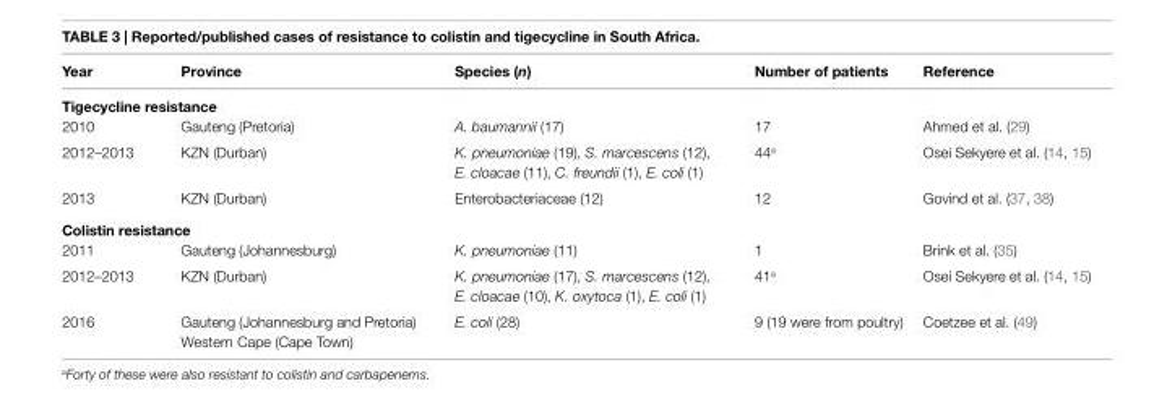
<table><thead><tr><td>Year</td><td>Province</td><td>Species (n)</td><td>Number of patients</td><td>Reference</td></tr></thead><tbody><tr><td colspan="5">Tigecycline resistance</td></tr><tr><td>2010</td><td>Gauteng (Pretoria)</td><td>A. baumannii (17)</td><td>17</td><td>Ahmed et al. (29)</td></tr><tr><td>2012–2013</td><td>KZN (Durban)</td><td>K. pneumoniae (19), S. marcescens (12), E. cloacae (11), C. freundii (1), E. coli (1)</td><td>44<sup>a</sup></td><td>Osei Sekyere et al. (14, 15)</td></tr><tr><td>2013</td><td>KZN (Durban)</td><td>Enterobacteriaceae (12)</td><td>12</td><td>Govind et al. (37, 38)</td></tr><tr><td colspan="5">Colistin resistance</td></tr><tr><td>2011</td><td>Gauteng (Johannesburg)</td><td>K. pneumoniae (11)</td><td>1</td><td>Brink et al. (35)</td></tr><tr><td>2012–2013</td><td>KZN (Durban)</td><td>K. pneumoniae (17), S. marcescens (12), E. cloacae (10), K. oxytoca (1), E. coli (1)</td><td>41<sup>a</sup></td><td>Osei Sekyere et al. (14, 15)</td></tr><tr><td rowspan="2">2016</td><td>Gauteng (Johannesburg and Pretoria)</td><td rowspan="2">E. coli (28)</td><td rowspan="2">9 (19 were from poultry)</td><td rowspan="2">Coetzee et al. (49)</td></tr><tr><td>Western Cape (Cape Town)</td></tr></tbody></table>